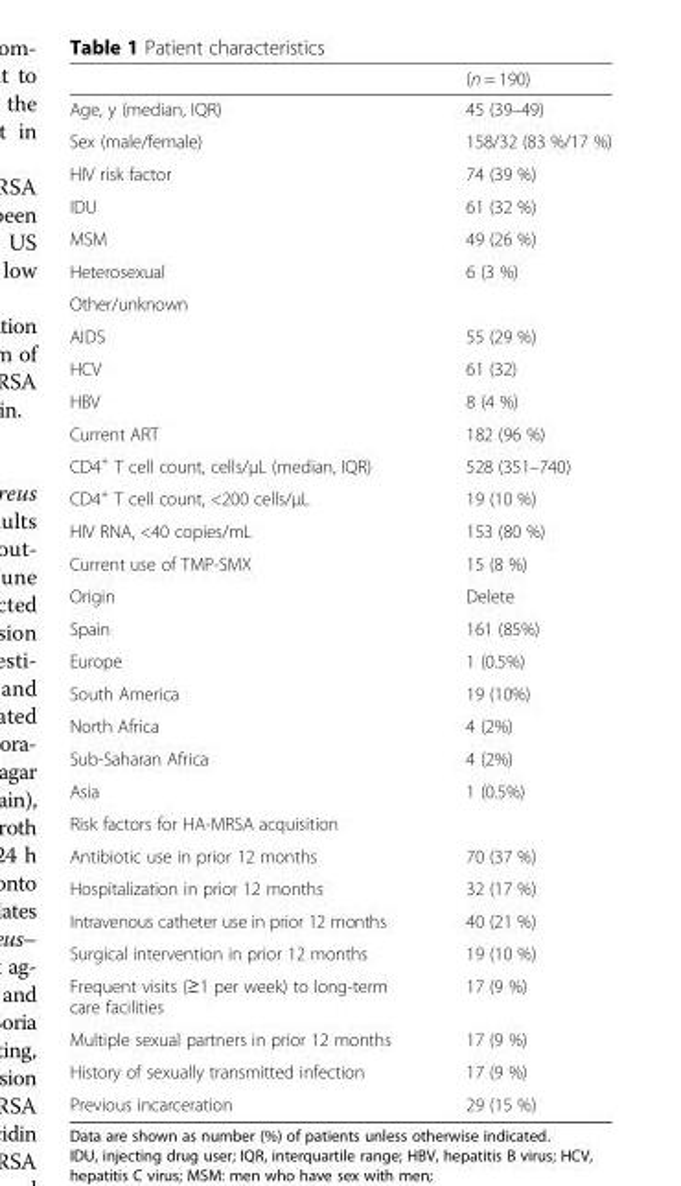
<table><thead><tr><td></td><td>(n = 190)</td></tr></thead><tbody><tr><td>Age, y (median, IQR)</td><td>45 (39–49)</td></tr><tr><td>Sex (male/female)</td><td>158/32 (83 %/17 %)</td></tr><tr><td>HIV risk factor</td><td>74 (39 %)</td></tr><tr><td>IDU</td><td>61 (32 %)</td></tr><tr><td>MSM</td><td>49 (26 %)</td></tr><tr><td>Heterosexual</td><td>6 (3 %)</td></tr><tr><td colspan="2">Other/unknown</td></tr><tr><td>AIDS</td><td>55 (29 %)</td></tr><tr><td>HCV</td><td>61 (32)</td></tr><tr><td>HBV</td><td>8 (4 %)</td></tr><tr><td>Current ART</td><td>182 (96 %)</td></tr><tr><td>CD4<sup>+</sup> T cell count, cells/μL (median, IQR)</td><td>528 (351–740)</td></tr><tr><td>CD4<sup>+</sup> T cell count, &lt;200 cells/μL</td><td>19 (10 %)</td></tr><tr><td>HIV RNA, &lt;40 copies/mL</td><td>153 (80 %)</td></tr><tr><td>Current use of TMP-SMX</td><td>15 (8 %)</td></tr><tr><td>Origin</td><td>Delete</td></tr><tr><td>Spain</td><td>161 (85%)</td></tr><tr><td>Europe</td><td>1 (0.5%)</td></tr><tr><td>South America</td><td>19 (10%)</td></tr><tr><td>North Africa</td><td>4 (2%)</td></tr><tr><td>Sub-Saharan Africa</td><td>4 (2%)</td></tr><tr><td>Asia</td><td>1 (0.5%)</td></tr><tr><td colspan="2">Risk factors for HA-MRSA acquisition</td></tr><tr><td>Antibiotic use in prior 12 months</td><td>70 (37 %)</td></tr><tr><td>Hospitalization in prior 12 months</td><td>32 (17 %)</td></tr><tr><td>Intravenous catheter use in prior 12 months</td><td>40 (21 %)</td></tr><tr><td>Surgical intervention in prior 12 months</td><td>19 (10 %)</td></tr><tr><td>Frequent visits (≥1 per week) to long-term care facilities</td><td>17 (9 %)</td></tr><tr><td>Multiple sexual partners in prior 12 months</td><td>17 (9 %)</td></tr><tr><td>History of sexually transmitted infection</td><td>17 (9 %)</td></tr><tr><td>Previous incarceration</td><td>29 (15 %)</td></tr></tbody></table>